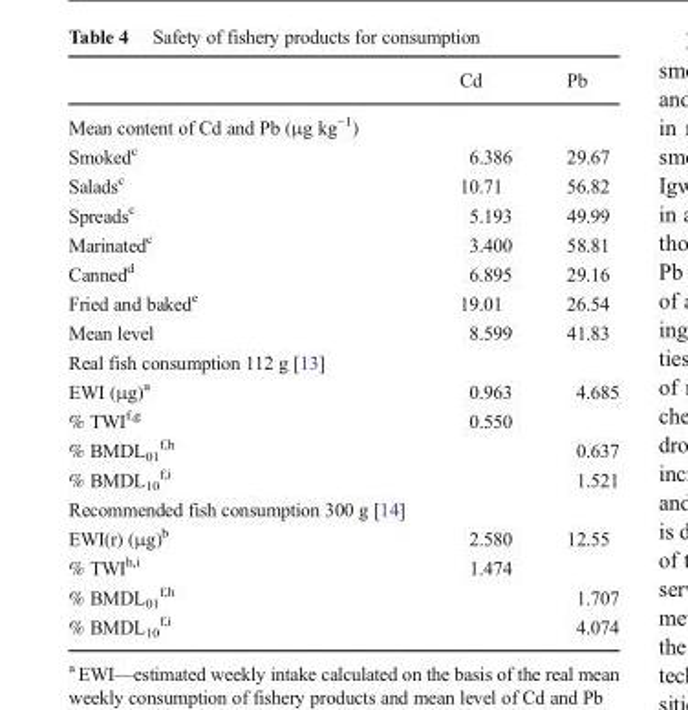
<table><thead><tr><td></td><td>Cd</td><td>Pb</td></tr></thead><tbody><tr><td colspan="3">Mean content of Cd and Pb (μg kg<sup>−1</sup>)</td></tr><tr><td>Smoked<sup>c</sup></td><td>6.386</td><td>29.67</td></tr><tr><td>Salads<sup>c</sup></td><td>10.71</td><td>56.82</td></tr><tr><td>Spreads<sup>c</sup></td><td>5.193</td><td>49.99</td></tr><tr><td>Marinated<sup>c</sup></td><td>3.400</td><td>58.81</td></tr><tr><td>Canned<sup>d</sup></td><td>6.895</td><td>29.16</td></tr><tr><td>Fried and baked<sup>e</sup></td><td>19.01</td><td>26.54</td></tr><tr><td>Mean level</td><td>8.599</td><td>41.83</td></tr><tr><td colspan="3">Real fish consumption 112 g [13]</td></tr><tr><td>EWI (μg)<sup>a</sup></td><td>0.963</td><td>4.685</td></tr><tr><td>% TWI<sup>f,g</sup></td><td>0.550</td><td></td></tr><tr><td>% BMDL<sub>01</sub> <sup>f,h</sup></td><td></td><td>0.637</td></tr><tr><td>% BMDL<sub>10</sub> <sup>f,i</sup></td><td></td><td>1.521</td></tr><tr><td colspan="3">Recommended fish consumption 300 g [14]</td></tr><tr><td>EWI(r) (μg)<sup>b</sup></td><td>2.580</td><td>12.55</td></tr><tr><td>% TWI<sup>h,i</sup></td><td>1.474</td><td></td></tr><tr><td>% BMDL<sub>01</sub> <sup>f,h</sup></td><td></td><td>1.707</td></tr><tr><td>% BMDL<sub>10</sub> <sup>f,i</sup></td><td></td><td>4.074</td></tr></tbody></table>